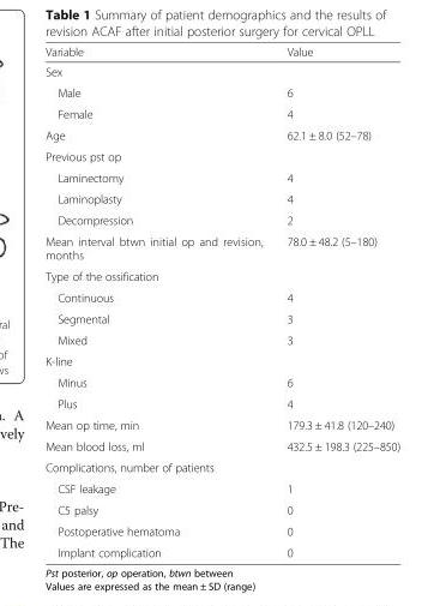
<table><thead><tr><td>Variable</td><td>Value</td></tr></thead><tbody><tr><td colspan="2">Sex</td></tr><tr><td>Male</td><td>6</td></tr><tr><td>Female</td><td>4</td></tr><tr><td>Age</td><td>62.1 ± 8.0 (52–78)</td></tr><tr><td colspan="2">Previous pst op</td></tr><tr><td>Laminectomy</td><td>4</td></tr><tr><td>Laminoplasty</td><td>4</td></tr><tr><td>Decompression</td><td>2</td></tr><tr><td>Mean interval btwn initial op and revision, months</td><td>78.0 ± 48.2 (5–180)</td></tr><tr><td colspan="2">Type of the ossification</td></tr><tr><td>Continuous</td><td>4</td></tr><tr><td>Segmental</td><td>3</td></tr><tr><td>Mixed</td><td>3</td></tr><tr><td colspan="2">K-line</td></tr><tr><td>Minus</td><td>6</td></tr><tr><td>Plus</td><td>4</td></tr><tr><td>Mean op time, min</td><td>179.3 ± 41.8 (120–240)</td></tr><tr><td>Mean blood loss, ml</td><td>432.5 ± 198.3 (225–850)</td></tr><tr><td colspan="2">Complications, number of patients</td></tr><tr><td>CSF leakage</td><td>1</td></tr><tr><td>C5 palsy</td><td>0</td></tr><tr><td>Postoperative hematoma</td><td>0</td></tr><tr><td>Implant complication</td><td>0</td></tr></tbody></table>